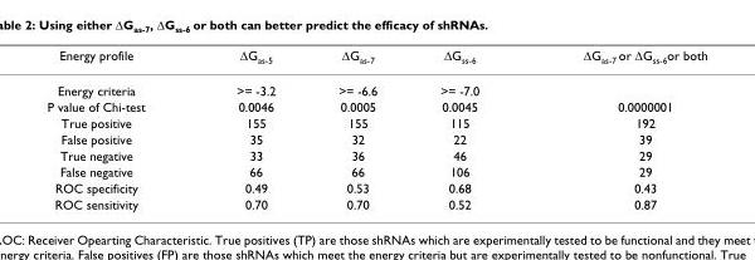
<table><thead><tr><td>Energy profile</td><td>ΔG<sub>as-5</sub></td><td>ΔG<sub>as-7</sub></td><td>ΔG<sub>ss-6</sub></td><td>ΔG<sub>as-7</sub> or ΔG<sub>ss-6</sub>or both</td></tr></thead><tbody><tr><td>Energy criteria</td><td>&gt;= -3.2</td><td>&gt;= -6.6</td><td>&gt;= -7.0</td><td></td></tr><tr><td>P value of Chi-test</td><td>0.0046</td><td>0.0005</td><td>0.0045</td><td>0.0000001</td></tr><tr><td>True positive</td><td>155</td><td>155</td><td>115</td><td>192</td></tr><tr><td>False positive</td><td>35</td><td>32</td><td>22</td><td>39</td></tr><tr><td>True negative</td><td>33</td><td>36</td><td>46</td><td>29</td></tr><tr><td>False negative</td><td>66</td><td>66</td><td>106</td><td>29</td></tr><tr><td>ROC specificity</td><td>0.49</td><td>0.53</td><td>0.68</td><td>0.43</td></tr><tr><td>ROC sensitivity</td><td>0.70</td><td>0.70</td><td>0.52</td><td>0.87</td></tr></tbody></table>